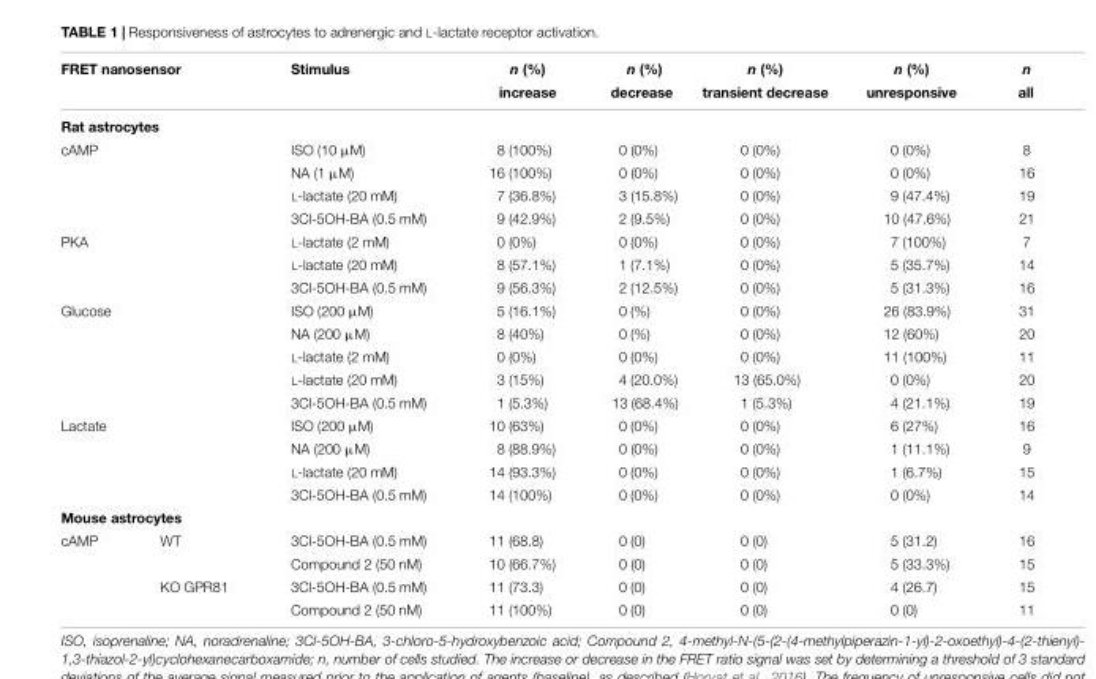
<table><thead><tr><td colspan="2">FRET nanosensor</td><td rowspan="2">Stimulus</td><td rowspan="2">n (%) increase</td><td rowspan="2">n (%) decrease</td><td rowspan="2">n (%) transient decrease</td><td rowspan="2">n (%) unresponsive</td><td rowspan="2">n all</td></tr><tr><td></td><td></td></tr></thead><tbody><tr><td colspan="8">Rat astrocytes</td></tr><tr><td rowspan="4" colspan="2">cAMP</td><td>ISO (10 µM)</td><td>8 (100%)</td><td>0 (0%)</td><td>0 (0%)</td><td>0 (0%)</td><td>8</td></tr><tr><td>NA (1 µM)</td><td>16 (100%)</td><td>0 (0%)</td><td>0 (0%)</td><td>0 (0%)</td><td>16</td></tr><tr><td>L-lactate (20 mM)</td><td>7 (36.8%)</td><td>3 (15.8%)</td><td>0 (0%)</td><td>9 (47.4%)</td><td>19</td></tr><tr><td>3Cl-5OH-BA (0.5 mM)</td><td>9 (42.9%)</td><td>2 (9.5%)</td><td>0 (0%)</td><td>10 (47.6%)</td><td>21</td></tr><tr><td rowspan="3" colspan="2">PKA</td><td>L-lactate (2 mM)</td><td>0 (0%)</td><td>0 (0%)</td><td>0 (0%)</td><td>7 (100%)</td><td>7</td></tr><tr><td>L-lactate (20 mM)</td><td>8 (57.1%)</td><td>1 (7.1%)</td><td>0 (0%)</td><td>5 (35.7%)</td><td>14</td></tr><tr><td>3Cl-5OH-BA (0.5 mM)</td><td>9 (56.3%)</td><td>2 (12.5%)</td><td>0 (0%)</td><td>5 (31.3%)</td><td>16</td></tr><tr><td rowspan="5" colspan="2">Glucose</td><td>ISO (200 µM)</td><td>5 (16.1%)</td><td>0 (%)</td><td>0 (0%)</td><td>26 (83.9%)</td><td>31</td></tr><tr><td>NA (200 µM)</td><td>8 (40%)</td><td>0 (%)</td><td>0 (0%)</td><td>12 (60%)</td><td>20</td></tr><tr><td>L-lactate (2 mM)</td><td>0 (0%)</td><td>0 (0%)</td><td>0 (0%)</td><td>11 (100%)</td><td>11</td></tr><tr><td>L-lactate (20 mM)</td><td>3 (15%)</td><td>4 (20.0%)</td><td>13 (65.0%)</td><td>0 (0%)</td><td>20</td></tr><tr><td>3Cl-5OH-BA (0.5 mM)</td><td>1 (5.3%)</td><td>13 (68.4%)</td><td>1 (5.3%)</td><td>4 (21.1%)</td><td>19</td></tr><tr><td rowspan="4" colspan="2">Lactate</td><td>ISO (200 µM)</td><td>10 (63%)</td><td>0 (0%)</td><td>0 (0%)</td><td>6 (27%)</td><td>16</td></tr><tr><td>NA (200 µM)</td><td>8 (88.9%)</td><td>0 (0%)</td><td>0 (0%)</td><td>1 (11.1%)</td><td>9</td></tr><tr><td>L-lactate (20 mM)</td><td>14 (93.3%)</td><td>0 (0%)</td><td>0 (0%)</td><td>1 (6.7%)</td><td>15</td></tr><tr><td>3Cl-5OH-BA (0.5 mM)</td><td>14 (100%)</td><td>0 (0%)</td><td>0 (0%)</td><td>0 (0%)</td><td>14</td></tr><tr><td colspan="8">Mouse astrocytes</td></tr><tr><td rowspan="4">cAMP</td><td>WT</td><td>3Cl-5OH-BA (0.5 mM)</td><td>11 (68.8)</td><td>0 (0)</td><td>0 (0)</td><td>5 (31.2)</td><td>16</td></tr><tr><td></td><td>Compound 2 (50 nM)</td><td>10 (66.7%)</td><td>0 (0)</td><td>0 (0)</td><td>5 (33.3%)</td><td>15</td></tr><tr><td>KO GPR81</td><td>3Cl-5OH-BA (0.5 mM)</td><td>11 (73.3)</td><td>0 (0)</td><td>0 (0)</td><td>4 (26.7)</td><td>15</td></tr><tr><td></td><td>Compound 2 (50 nM)</td><td>11 (100%)</td><td>0 (0)</td><td>0 (0)</td><td>0 (0)</td><td>11</td></tr></tbody></table>